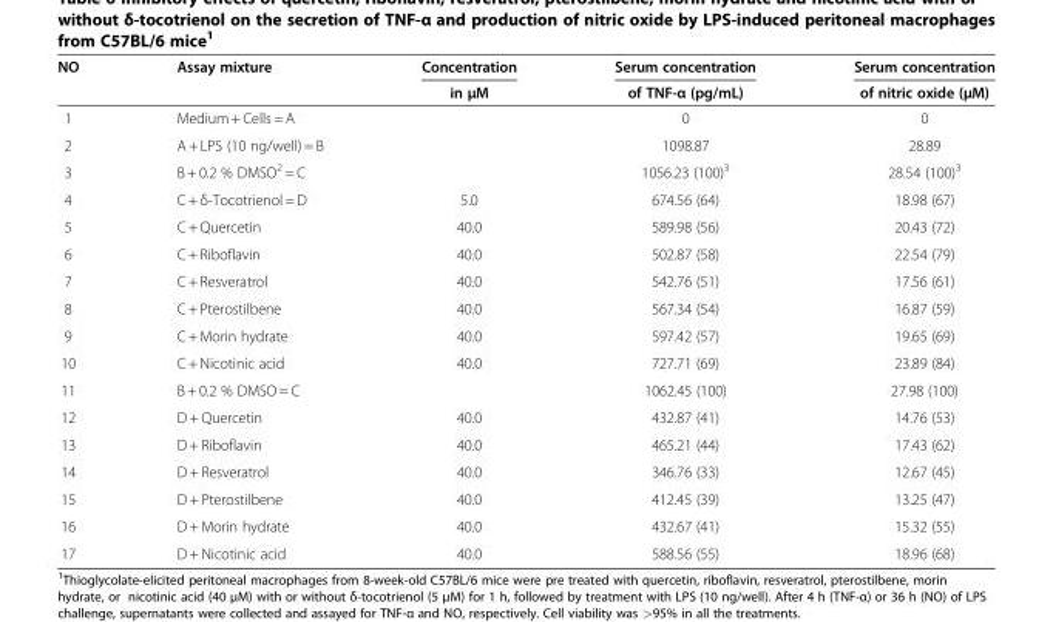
<table><thead><tr><td rowspan="2">NO</td><td rowspan="2">Assay mixture</td><td rowspan="2">Concentration in μM</td><td rowspan="2">Serum concentration of TNF-α (pg/mL)</td><td rowspan="2">Serum concentration of nitric oxide (μM)</td></tr><tr></tr></thead><tbody><tr><td>1</td><td>Medium + Cells = A</td><td></td><td>0</td><td>0</td></tr><tr><td>2</td><td>A + LPS (10 ng/well) = B</td><td></td><td>1098.87</td><td>28.89</td></tr><tr><td>3</td><td>B + 0.2 % DMSO<sup>2</sup> = C</td><td></td><td>1056.23 (100)<sup>3</sup></td><td>28.54 (100)<sup>3</sup></td></tr><tr><td>4</td><td>C + δ-Tocotrienol = D</td><td>5.0</td><td>674.56 (64)</td><td>18.98 (67)</td></tr><tr><td>5</td><td>C + Quercetin</td><td>40.0</td><td>589.98 (56)</td><td>20.43 (72)</td></tr><tr><td>6</td><td>C + Riboflavin</td><td>40.0</td><td>502.87 (58)</td><td>22.54 (79)</td></tr><tr><td>7</td><td>C + Resveratrol</td><td>40.0</td><td>542.76 (51)</td><td>17.56 (61)</td></tr><tr><td>8</td><td>C + Pterostilbene</td><td>40.0</td><td>567.34 (54)</td><td>16.87 (59)</td></tr><tr><td>9</td><td>C + Morin hydrate</td><td>40.0</td><td>597.42 (57)</td><td>19.65 (69)</td></tr><tr><td>10</td><td>C + Nicotinic acid</td><td>40.0</td><td>727.71 (69)</td><td>23.89 (84)</td></tr><tr><td>11</td><td>B + 0.2 % DMSO = C</td><td></td><td>1062.45 (100)</td><td>27.98 (100)</td></tr><tr><td>12</td><td>D + Quercetin</td><td>40.0</td><td>432.87 (41)</td><td>14.76 (53)</td></tr><tr><td>13</td><td>D + Riboflavin</td><td>40.0</td><td>465.21 (44)</td><td>17.43 (62)</td></tr><tr><td>14</td><td>D + Resveratrol</td><td>40.0</td><td>346.76 (33)</td><td>12.67 (45)</td></tr><tr><td>15</td><td>D + Pterostilbene</td><td>40.0</td><td>412.45 (39)</td><td>13.25 (47)</td></tr><tr><td>16</td><td>D + Morin hydrate</td><td>40.0</td><td>432.67 (41)</td><td>15.32 (55)</td></tr><tr><td>17</td><td>D + Nicotinic acid</td><td>40.0</td><td>588.56 (55)</td><td>18.96 (68)</td></tr></tbody></table>